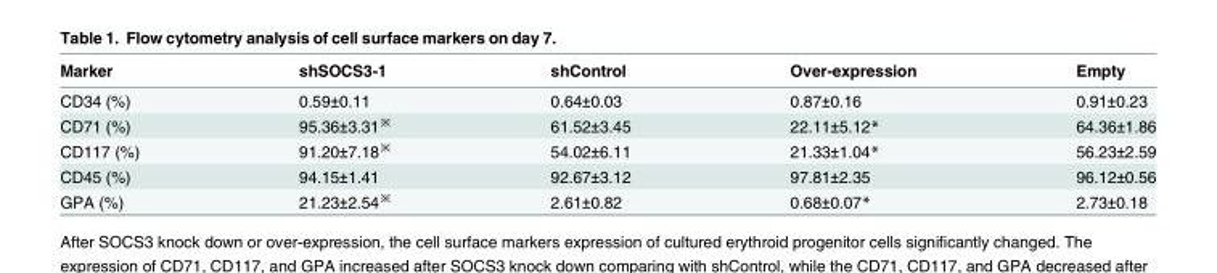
<table><thead><tr><td>Marker</td><td>shSOCS3-1</td><td>shControl</td><td>Over-expression</td><td>Empty</td></tr></thead><tbody><tr><td>CD34 (%)</td><td>0.59±0.11</td><td>0.64±0.03</td><td>0.87±0.16</td><td>0.91±0.23</td></tr><tr><td>CD71 (%)</td><td>95.36±3.31<sup>※</sup></td><td>61.52±3.45</td><td>22.11±5.12*</td><td>64.36±1.86</td></tr><tr><td>CD117 (%)</td><td>91.20±7.18<sup>※</sup></td><td>54.02±6.11</td><td>21.33±1.04*</td><td>56.23±2.59</td></tr><tr><td>CD45 (%)</td><td>94.15±1.41</td><td>92.67±3.12</td><td>97.81±2.35</td><td>96.12±0.56</td></tr><tr><td>GPA (%)</td><td>21.23±2.54<sup>※</sup></td><td>2.61±0.82</td><td>0.68±0.07*</td><td>2.73±0.18</td></tr></tbody></table>